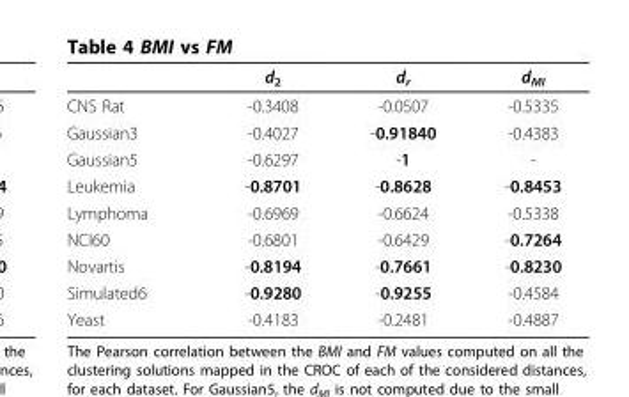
<table><thead><tr><td></td><td>d<sub>2</sub></td><td>d<sub>r</sub></td><td>d<sub>MI</sub></td></tr></thead><tbody><tr><td>CNS Rat</td><td>-0.3408</td><td>-0.0507</td><td>-0.5335</td></tr><tr><td>Gaussian3</td><td>-0.4027</td><td>-0.91840</td><td>-0.4383</td></tr><tr><td>Gaussian5</td><td>-0.6297</td><td>-1</td><td>-</td></tr><tr><td>Leukemia</td><td>-0.8701</td><td>-0.8628</td><td>-0.8453</td></tr><tr><td>Lymphoma</td><td>-0.6969</td><td>-0.6624</td><td>-0.5338</td></tr><tr><td>NCI60</td><td>-0.6801</td><td>-0.6429</td><td>-0.7264</td></tr><tr><td>Novartis</td><td>-0.8194</td><td>-0.7661</td><td>-0.8230</td></tr><tr><td>Simulated6</td><td>-0.9280</td><td>-0.9255</td><td>-0.4584</td></tr><tr><td>Yeast</td><td>-0.4183</td><td>-0.2481</td><td>-0.4887</td></tr></tbody></table>